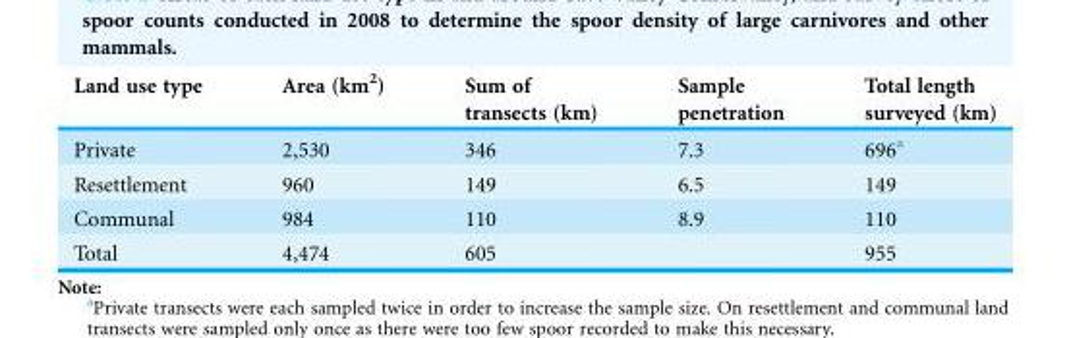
<table><thead><tr><td>Land use type</td><td>Area (km<sup>2</sup>)</td><td>Sum of transects (km)</td><td>Sample penetration</td><td>Total length surveyed (km)</td></tr></thead><tbody><tr><td>Private</td><td>2,530</td><td>346</td><td>7.3</td><td>696<sup>a</sup></td></tr><tr><td>Resettlement</td><td>960</td><td>149</td><td>6.5</td><td>149</td></tr><tr><td>Communal</td><td>984</td><td>110</td><td>8.9</td><td>110</td></tr><tr><td>Total</td><td>4,474</td><td>605</td><td></td><td>955</td></tr></tbody></table>